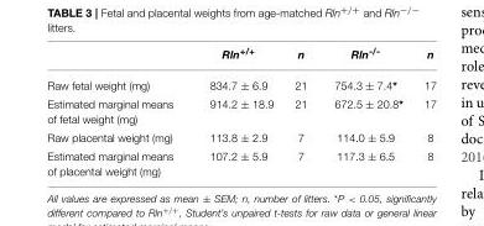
<table><thead><tr><td></td><td>Rln<sup>+/+</sup></td><td>n</td><td>Rln<sup>-/-</sup></td><td>n</td></tr></thead><tbody><tr><td>Raw fetal weight (mg)</td><td>834.7 ± 6.9</td><td>21</td><td>754.3 ± 7.4*</td><td>17</td></tr><tr><td>Estimated marginal means of fetal weight (mg)</td><td>914.2 ± 18.9</td><td>21</td><td>672.5 ± 20.8*</td><td>17</td></tr><tr><td>Raw placental weight (mg)</td><td>113.8 ± 2.9</td><td>7</td><td>114.0 ± 5.9</td><td>8</td></tr><tr><td>Estimated marginal means of placental weight (mg)</td><td>107.2 ± 5.9</td><td>7</td><td>117.3 ± 6.5</td><td>8</td></tr></tbody></table>